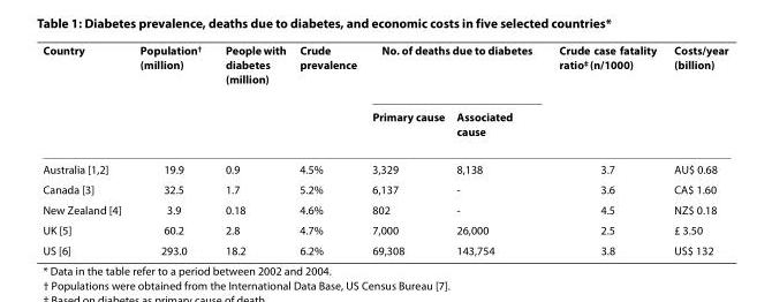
<table><thead><tr><td rowspan="2">Country</td><td rowspan="2">Population<sup>†</sup> (million)</td><td rowspan="2">People with diabetes (million)</td><td rowspan="2">Crude prevalence</td><td colspan="2">No. of deaths due to diabetes</td><td rowspan="2">Crude case fatality ratio<sup>‡</sup> (n/1000)</td><td rowspan="2">Costs/year (billion)</td></tr><tr><td>Primary cause</td><td>Associated cause</td></tr></thead><tbody><tr><td>Australia [1,2]</td><td>19.9</td><td>0.9</td><td>4.5%</td><td>3,329</td><td>8,138</td><td>3.7</td><td>AU$ 0.68</td></tr><tr><td>Canada [3]</td><td>32.5</td><td>1.7</td><td>5.2%</td><td>6,137</td><td>-</td><td>3.6</td><td>CA$ 1.60</td></tr><tr><td>New Zealand [4]</td><td>3.9</td><td>0.18</td><td>4.6%</td><td>802</td><td>-</td><td>4.5</td><td>NZ$ 0.18</td></tr><tr><td>UK [5]</td><td>60.2</td><td>2.8</td><td>4.7%</td><td>7,000</td><td>26,000</td><td>2.5</td><td>£ 3.50</td></tr><tr><td>US [6]</td><td>293.0</td><td>18.2</td><td>6.2%</td><td>69,308</td><td>143,754</td><td>3.8</td><td>US$ 132</td></tr></tbody></table>